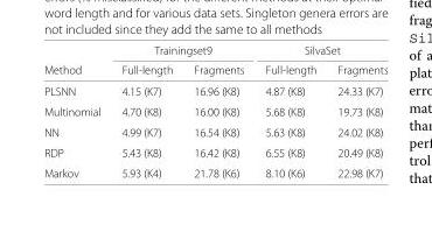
<table><thead><tr><td rowspan="2">Method</td><td colspan="2">Trainingset9</td><td colspan="2">SilvaSet</td></tr><tr><td>Full-length</td><td>Fragments</td><td>Full-length</td><td>Fragments</td></tr></thead><tbody><tr><td>PLSNN</td><td>4.15 (K7)</td><td>16.96 (K8)</td><td>4.87 (K8)</td><td>24.33 (K7)</td></tr><tr><td>Multinomial</td><td>4.70 (K8)</td><td>16.00 (K8)</td><td>5.68 (K8)</td><td>19.73 (K8)</td></tr><tr><td>NN</td><td>4.99 (K7)</td><td>16.54 (K8)</td><td>5.63 (K8)</td><td>24.02 (K8)</td></tr><tr><td>RDP</td><td>5.43 (K8)</td><td>16.42 (K8)</td><td>6.55 (K8)</td><td>20.49 (K8)</td></tr><tr><td>Markov</td><td>5.93 (K4)</td><td>21.78 (K6)</td><td>8.10 (K6)</td><td>22.98 (K7)</td></tr></tbody></table>